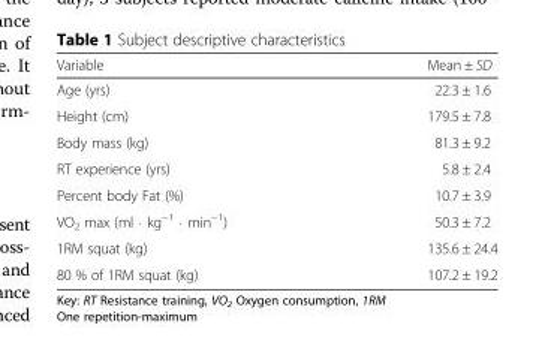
<table><thead><tr><td>Variable</td><td>Mean ± SD</td></tr></thead><tbody><tr><td>Age (yrs)</td><td>22.3 ± 1.6</td></tr><tr><td>Height (cm)</td><td>179.5 ± 7.8</td></tr><tr><td>Body mass (kg)</td><td>81.3 ± 9.2</td></tr><tr><td>RT experience (yrs)</td><td>5.8 ± 2.4</td></tr><tr><td>Percent body Fat (%)</td><td>10.7 ± 3.9</td></tr><tr><td>VO<sub>2</sub> max (ml ⋅ kg<sup>−1</sup> ⋅ min<sup>−1</sup>)</td><td>50.3 ± 7.2</td></tr><tr><td>1RM squat (kg)</td><td>135.6 ± 24.4</td></tr><tr><td>80 % of 1RM squat (kg)</td><td>107.2 ± 19.2</td></tr></tbody></table>